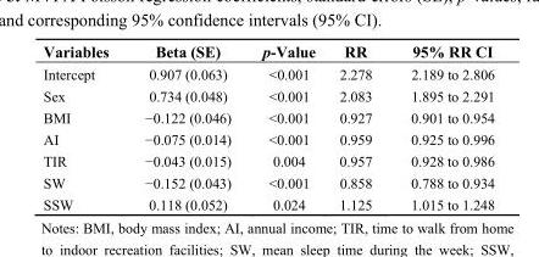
<table><thead><tr><td>Variables</td><td>Beta (SE)</td><td>p-Value</td><td>RR</td><td>95% RR CI</td></tr></thead><tbody><tr><td>Intercept</td><td>0.907 (0.063)</td><td>&lt;0.001</td><td>2.278</td><td>2.189 to 2.806</td></tr><tr><td>Sex</td><td>0.734 (0.048)</td><td>&lt;0.001</td><td>2.083</td><td>1.895 to 2.291</td></tr><tr><td>BMI</td><td>−0.122 (0.046)</td><td>&lt;0.001</td><td>0.927</td><td>0.901 to 0.954</td></tr><tr><td>AI</td><td>−0.075 (0.014)</td><td>&lt;0.001</td><td>0.959</td><td>0.925 to 0.996</td></tr><tr><td>TIR</td><td>−0.043 (0.015)</td><td>0.004</td><td>0.957</td><td>0.928 to 0.986</td></tr><tr><td>SW</td><td>−0.152 (0.043)</td><td>&lt;0.001</td><td>0.858</td><td>0.788 to 0.934</td></tr><tr><td>SSW</td><td>0.118 (0.052)</td><td>0.024</td><td>1.125</td><td>1.015 to 1.248</td></tr></tbody></table>